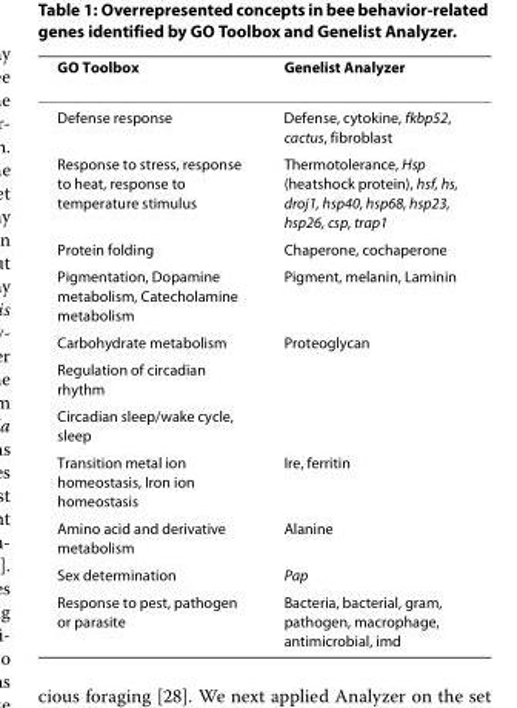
<table><thead><tr><td>GO Toolbox</td><td>Genelist Analyzer</td></tr></thead><tbody><tr><td>Defense response</td><td>Defense, cytokine, fkbp52, cactus, fibroblast</td></tr><tr><td>Response to stress, response to heat, response to temperature stimulus</td><td>Thermotolerance, Hsp (heatshock protein), hsf, hs, droj1, hsp40, hsp68, hsp23, hsp26, csp, trap1</td></tr><tr><td>Protein folding</td><td>Chaperone, cochaperone</td></tr><tr><td>Pigmentation, Dopamine metabolism, Catecholamine metabolism</td><td>Pigment, melanin, Laminin</td></tr><tr><td>Carbohydrate metabolism</td><td>Proteoglycan</td></tr><tr><td colspan="2">Regulation of circadian rhythm</td></tr><tr><td colspan="2">Circadian sleep/wake cycle, sleep</td></tr><tr><td>Transition metal ion homeostasis, Iron ion homeostasis</td><td>Ire, ferritin</td></tr><tr><td>Amino acid and derivative metabolism</td><td>Alanine</td></tr><tr><td>Sex determination</td><td>Pap</td></tr><tr><td>Response to pest, pathogen or parasite</td><td>Bacteria, bacterial, gram, pathogen, macrophage, antimicrobial, imd</td></tr></tbody></table>